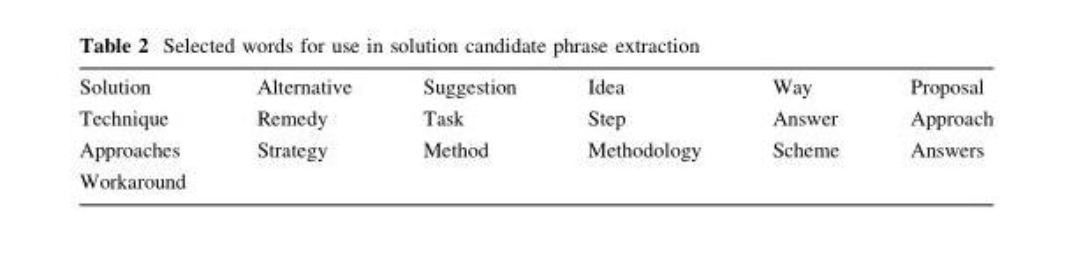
<table><tbody><tr><td>Solution</td><td>Alternative</td><td>Suggestion</td><td>Idea</td><td>Way</td><td>Proposal</td></tr><tr><td>Technique</td><td>Remedy</td><td>Task</td><td>Step</td><td>Answer</td><td>Approach</td></tr><tr><td>Approaches</td><td>Strategy</td><td>Method</td><td>Methodology</td><td>Scheme</td><td>Answers</td></tr><tr><td>Workaround</td><td></td><td></td><td></td><td></td><td></td></tr></tbody></table>